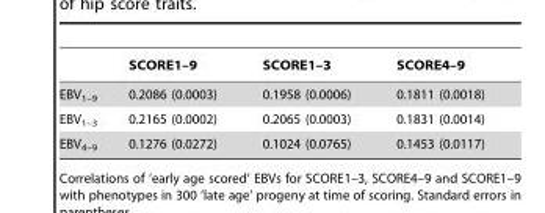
<table><thead><tr><td></td><td>SCORE1–9</td><td>SCORE1–3</td><td>SCORE4–9</td></tr></thead><tbody><tr><td>EBV<sub>1–9</sub></td><td>0.2086 (0.0003)</td><td>0.1958 (0.0006)</td><td>0.1811 (0.0018)</td></tr><tr><td>EBV<sub>1–3</sub></td><td>0.2165 (0.0002)</td><td>0.2065 (0.0003)</td><td>0.1831 (0.0014)</td></tr><tr><td>EBV<sub>4–9</sub></td><td>0.1276 (0.0272)</td><td>0.1024 (0.0765)</td><td>0.1453 (0.0117)</td></tr></tbody></table>